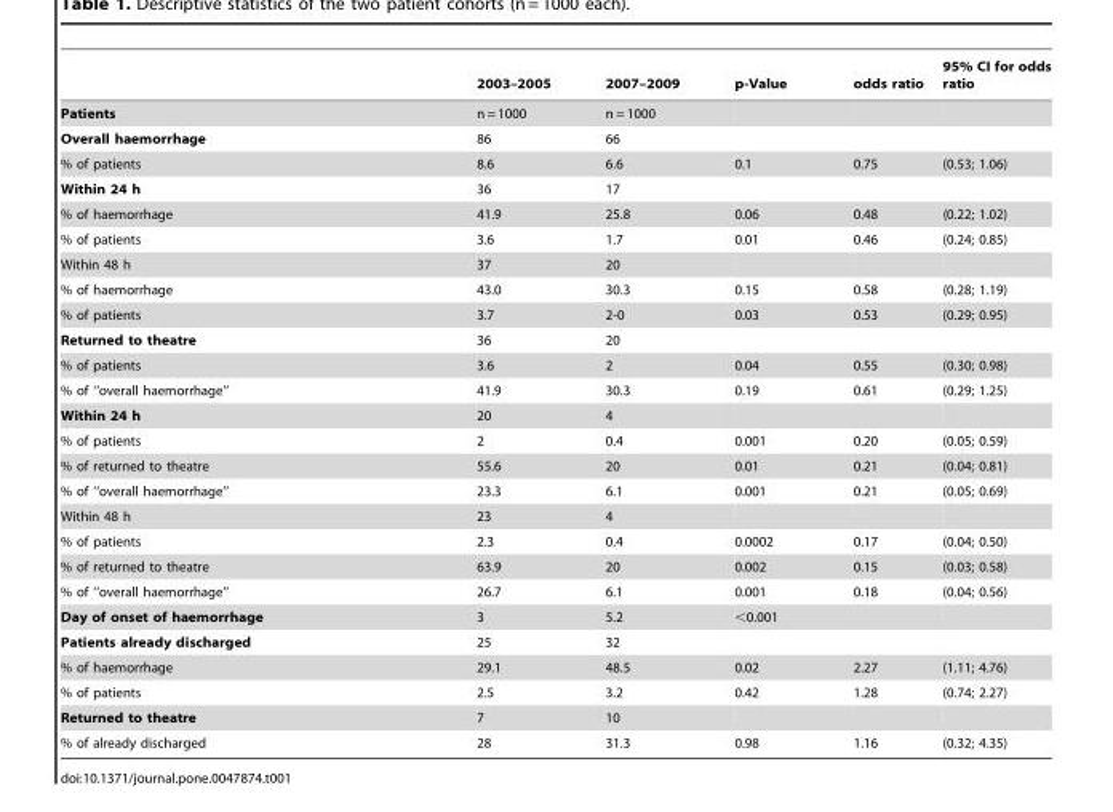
<table><thead><tr><td></td><td>2003–2005</td><td>2007–2009</td><td>p-Value</td><td>odds ratio</td><td>95% CI for odds ratio</td></tr></thead><tbody><tr><td>Patients</td><td>n = 1000</td><td>n = 1000</td><td></td><td></td><td></td></tr><tr><td>Overall haemorrhage</td><td>86</td><td>66</td><td></td><td></td><td></td></tr><tr><td>% of patients</td><td>8.6</td><td>6.6</td><td>0.1</td><td>0.75</td><td>(0.53; 1.06)</td></tr><tr><td>Within 24 h</td><td>36</td><td>17</td><td></td><td></td><td></td></tr><tr><td>% of haemorrhage</td><td>41.9</td><td>25.8</td><td>0.06</td><td>0.48</td><td>(0.22; 1.02)</td></tr><tr><td>% of patients</td><td>3.6</td><td>1.7</td><td>0.01</td><td>0.46</td><td>(0.24; 0.85)</td></tr><tr><td>Within 48 h</td><td>37</td><td>20</td><td></td><td></td><td></td></tr><tr><td>% of haemorrhage</td><td>43.0</td><td>30.3</td><td>0.15</td><td>0.58</td><td>(0.28; 1.19)</td></tr><tr><td>% of patients</td><td>3.7</td><td>2-0</td><td>0.03</td><td>0.53</td><td>(0.29; 0.95)</td></tr><tr><td>Returned to theatre</td><td>36</td><td>20</td><td></td><td></td><td></td></tr><tr><td>% of patients</td><td>3.6</td><td>2</td><td>0.04</td><td>0.55</td><td>(0.30; 0.98)</td></tr><tr><td>% of ‘‘overall haemorrhage’’</td><td>41.9</td><td>30.3</td><td>0.19</td><td>0.61</td><td>(0.29; 1.25)</td></tr><tr><td>Within 24 h</td><td>20</td><td>4</td><td></td><td></td><td></td></tr><tr><td>% of patients</td><td>2</td><td>0.4</td><td>0.001</td><td>0.20</td><td>(0.05; 0.59)</td></tr><tr><td>% of returned to theatre</td><td>55.6</td><td>20</td><td>0.01</td><td>0.21</td><td>(0.04; 0.81)</td></tr><tr><td>% of ‘‘overall haemorrhage’’</td><td>23.3</td><td>6.1</td><td>0.001</td><td>0.21</td><td>(0.05; 0.69)</td></tr><tr><td>Within 48 h</td><td>23</td><td>4</td><td></td><td></td><td></td></tr><tr><td>% of patients</td><td>2.3</td><td>0.4</td><td>0.0002</td><td>0.17</td><td>(0.04; 0.50)</td></tr><tr><td>% of returned to theatre</td><td>63.9</td><td>20</td><td>0.002</td><td>0.15</td><td>(0.03; 0.58)</td></tr><tr><td>% of ‘‘overall haemorrhage’’</td><td>26.7</td><td>6.1</td><td>0.001</td><td>0.18</td><td>(0.04; 0.56)</td></tr><tr><td>Day of onset of haemorrhage</td><td>3</td><td>5.2</td><td>&lt;0.001</td><td></td><td></td></tr><tr><td>Patients already discharged</td><td>25</td><td>32</td><td></td><td></td><td></td></tr><tr><td>% of haemorrhage</td><td>29.1</td><td>48.5</td><td>0.02</td><td>2.27</td><td>(1.11; 4.76)</td></tr><tr><td>% of patients</td><td>2.5</td><td>3.2</td><td>0.42</td><td>1.28</td><td>(0.74; 2.27)</td></tr><tr><td>Returned to theatre</td><td>7</td><td>10</td><td></td><td></td><td></td></tr><tr><td>% of already discharged</td><td>28</td><td>31.3</td><td>0.98</td><td>1.16</td><td>(0.32; 4.35)</td></tr></tbody></table>